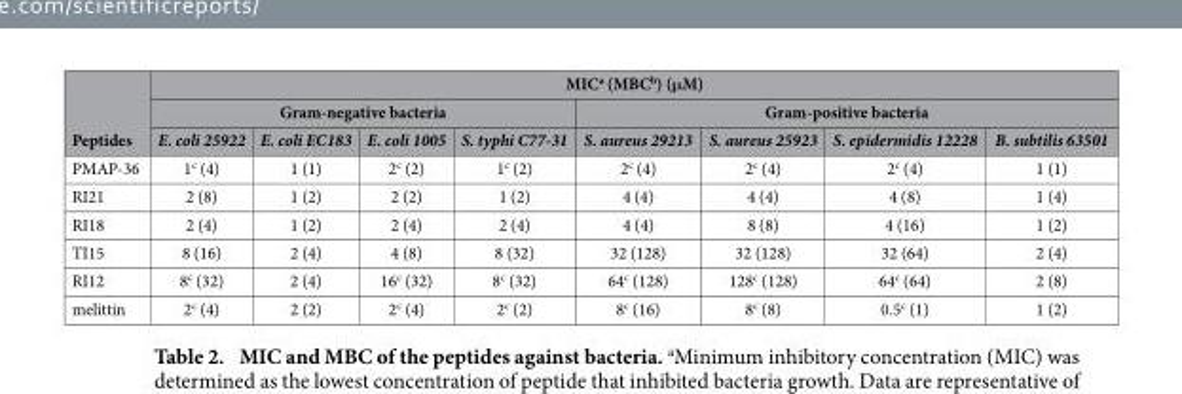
<table><thead><tr><td rowspan="3">Peptides</td><td colspan="8">MIC<sup>a</sup> (MBC<sup>b</sup>) (μM)</td></tr><tr><td colspan="4">Gram-negative bacteria</td><td colspan="4">Gram-positive bacteria</td></tr><tr><td>E. coli 25922</td><td>E. coli EC183</td><td>E. coli 1005</td><td>S. typhi C77-31</td><td>S. aureus 29213</td><td>S. aureus 25923</td><td>S. epidermidis 12228</td><td>B. subtilis 63501</td></tr></thead><tbody><tr><td>PMAP-36</td><td>1<sup>c</sup> (4)</td><td>1 (1)</td><td>2<sup>c</sup> (2)</td><td>1<sup>c</sup> (2)</td><td>2<sup>c</sup> (4)</td><td>2<sup>c</sup> (4)</td><td>2<sup>c</sup> (4)</td><td>1 (1)</td></tr><tr><td>RI21</td><td>2 (8)</td><td>1 (2)</td><td>2 (2)</td><td>1 (2)</td><td>4 (4)</td><td>4 (4)</td><td>4 (8)</td><td>1 (4)</td></tr><tr><td>RI18</td><td>2 (4)</td><td>1 (2)</td><td>2 (4)</td><td>2 (4)</td><td>4 (4)</td><td>8 (8)</td><td>4 (16)</td><td>1 (2)</td></tr><tr><td>TI15</td><td>8 (16)</td><td>2 (4)</td><td>4 (8)</td><td>8 (32)</td><td>32 (128)</td><td>32 (128)</td><td>32 (64)</td><td>2 (4)</td></tr><tr><td>RI12</td><td>8<sup>c</sup> (32)</td><td>2 (4)</td><td>16<sup>c</sup> (32)</td><td>8<sup>c</sup> (32)</td><td>64<sup>c</sup> (128)</td><td>128<sup>c</sup> (128)</td><td>64<sup>c</sup> (64)</td><td>2 (8)</td></tr><tr><td>melittin</td><td>2<sup>c</sup> (4)</td><td>2 (2)</td><td>2<sup>c</sup> (4)</td><td>2<sup>c</sup> (2)</td><td>8<sup>c</sup> (16)</td><td>8<sup>c</sup> (8)</td><td>0.5<sup>c</sup> (1)</td><td>1 (2)</td></tr></tbody></table>